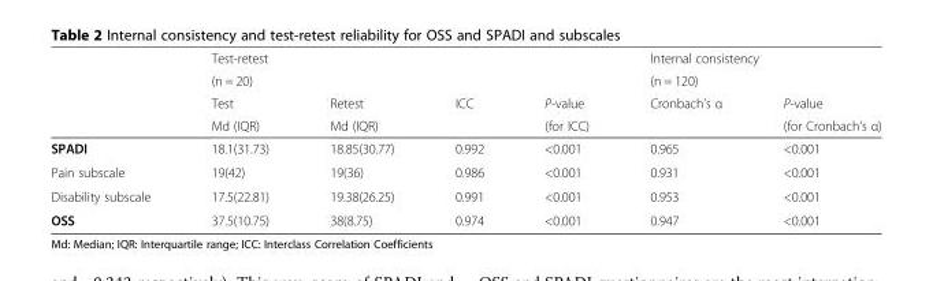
<table><thead><tr><td rowspan="4"></td><td rowspan="2" colspan="4">Test-retest (n = 20)</td><td rowspan="2" colspan="2">Internal consistency (n = 120)</td></tr><tr></tr><tr><td rowspan="2">Test Md (IQR)</td><td rowspan="2">Retest Md (IQR)</td><td rowspan="2">ICC</td><td rowspan="2">P-value (for ICC)</td><td rowspan="2">Cronbach’s α</td><td rowspan="2">P-value (for Cronbach’s α)</td></tr><tr></tr></thead><tbody><tr><td>SPADI</td><td>18.1(31.73)</td><td>18.85(30.77)</td><td>0.992</td><td>&lt;0.001</td><td>0.965</td><td>&lt;0.001</td></tr><tr><td>Pain subscale</td><td>19(42)</td><td>19(36)</td><td>0.986</td><td>&lt;0.001</td><td>0.931</td><td>&lt;0.001</td></tr><tr><td>Disability subscale</td><td>17.5(22.81)</td><td>19.38(26.25)</td><td>0.991</td><td>&lt;0.001</td><td>0.953</td><td>&lt;0.001</td></tr><tr><td>OSS</td><td>37.5(10.75)</td><td>38(8.75)</td><td>0.974</td><td>&lt;0.001</td><td>0.947</td><td>&lt;0.001</td></tr></tbody></table>